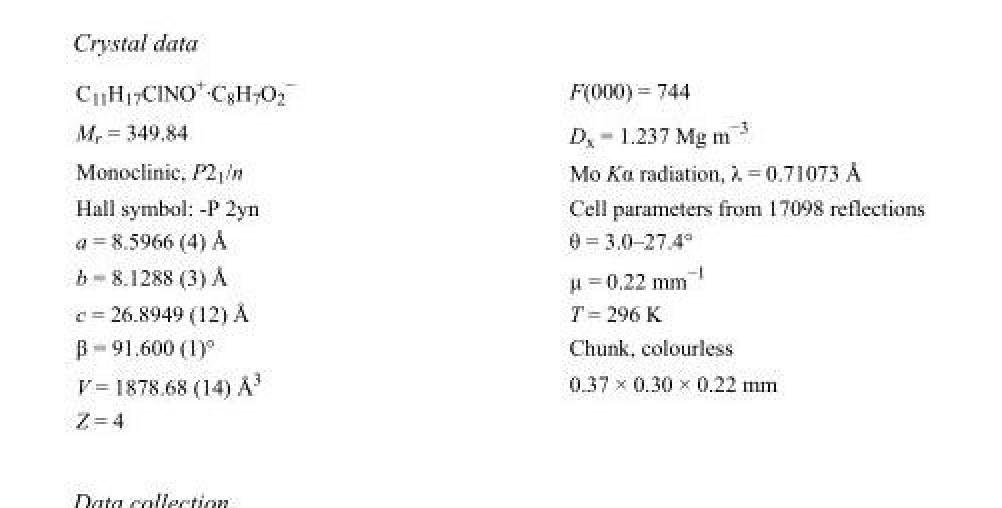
<table><tbody><tr><td>C<sub>11</sub>H<sub>17</sub>ClNO<sup>+</sup>·C<sub>8</sub>H<sub>7</sub>O<sub>2</sub> <sup>−</sup></td><td>F(000) = 744</td></tr><tr><td>M<sub>r</sub> = 349.84</td><td>D<sub>x</sub> = 1.237 Mg m<sup>−3</sup></td></tr><tr><td>Monoclinic, P2<sub>1</sub>/n</td><td>Mo Kα radiation, λ = 0.71073 Å</td></tr><tr><td>Hall symbol: -P 2yn</td><td>Cell parameters from 17098 reflections</td></tr><tr><td>a = 8.5966 (4) Å</td><td>θ = 3.0–27.4°</td></tr><tr><td>b = 8.1288 (3) Å</td><td>µ = 0.22 mm<sup>−1</sup></td></tr><tr><td>c = 26.8949 (12) Å</td><td>T = 296 K</td></tr><tr><td>β = 91.600 (1)°</td><td>Chunk, colourless</td></tr><tr><td>V = 1878.68 (14) Å<sup>3</sup></td><td>0.37 × 0.30 × 0.22 mm</td></tr><tr><td>Z = 4</td><td></td></tr></tbody></table>